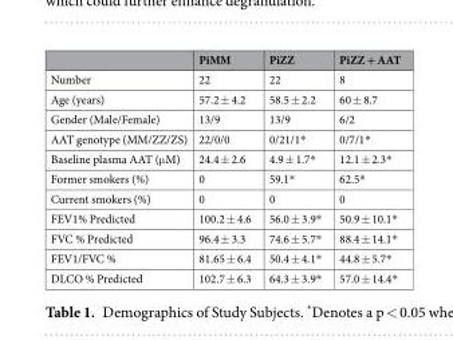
<table><thead><tr><td></td><td>PiMM</td><td>PiZZ</td><td>PiZZ + AAT</td></tr></thead><tbody><tr><td>Number</td><td>22</td><td>22</td><td>8</td></tr><tr><td>Age (years)</td><td>57.2 ± 4.2</td><td>58.5 ± 2.2</td><td>60 ± 8.7</td></tr><tr><td>Gender (Male/Female)</td><td>13/9</td><td>13/9</td><td>6/2</td></tr><tr><td>AAT genotype (MM/ZZ/ZS)</td><td>22/0/0</td><td>0/21/1*</td><td>0/7/1*</td></tr><tr><td>Baseline plasma AAT (μM)</td><td>24.4 ± 2.6</td><td>4.9 ± 1.7*</td><td>12.1 ± 2.3*</td></tr><tr><td>Former smokers (%)</td><td>0</td><td>59.1*</td><td>62.5*</td></tr><tr><td>Current smokers (%)</td><td>0</td><td>0</td><td>0</td></tr><tr><td>FEV1% Predicted</td><td>100.2 ± 4.6</td><td>56.0 ± 3.9*</td><td>50.9 ± 10.1*</td></tr><tr><td>FVC % Predicted</td><td>96.4 ± 3.3</td><td>74.6 ± 5.7*</td><td>88.4 ± 14.1*</td></tr><tr><td>FEV1/FVC %</td><td>81.65 ± 6.4</td><td>50.4 ± 4.1*</td><td>44.8 ± 5.7*</td></tr><tr><td>DLCO % Predicted</td><td>102.7 ± 6.3</td><td>64.3 ± 3.9*</td><td>57.0 ± 14.4*</td></tr></tbody></table>